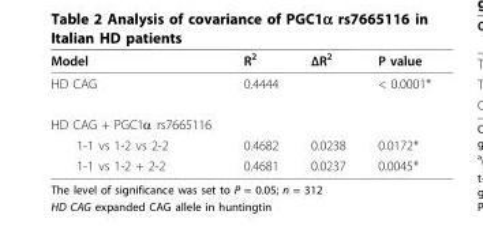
<table><thead><tr><td>Model</td><td>R<sup>2</sup></td><td>ΔR<sup>2</sup></td><td>P value</td></tr></thead><tbody><tr><td>HD CAG</td><td>0.4444</td><td></td><td>&lt; 0.0001*</td></tr><tr><td colspan="4">HD CAG + PGC1α rs7665116</td></tr><tr><td>1-1 vs 1-2 vs 2-2</td><td>0.4682</td><td>0.0238</td><td>0.0172*</td></tr><tr><td>1-1 vs 1-2 + 2-2</td><td>0.4681</td><td>0.0237</td><td>0.0045*</td></tr></tbody></table>